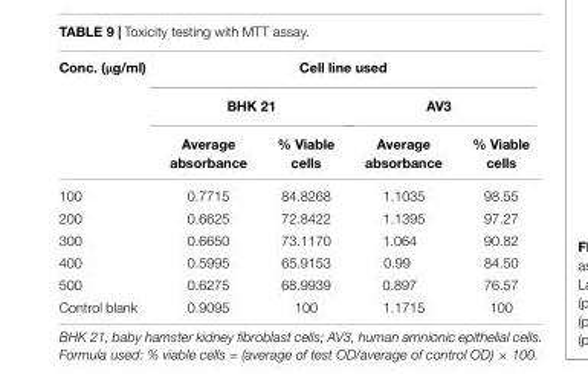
<table><thead><tr><td rowspan="3">Conc. (µg/ml)</td><td colspan="4">Cell line used</td></tr><tr><td colspan="2">BHK 21</td><td colspan="2">AV3</td></tr><tr><td>Average absorbance</td><td>% Viable cells</td><td>Average absorbance</td><td>% Viable cells</td></tr></thead><tbody><tr><td>100</td><td>0.7715</td><td>84.8268</td><td>1.1035</td><td>98.55</td></tr><tr><td>200</td><td>0.6625</td><td>72.8422</td><td>1.1395</td><td>97.27</td></tr><tr><td>300</td><td>0.6650</td><td>73.1170</td><td>1.064</td><td>90.82</td></tr><tr><td>400</td><td>0.5995</td><td>65.9153</td><td>0.99</td><td>84.50</td></tr><tr><td>500</td><td>0.6275</td><td>68.9939</td><td>0.897</td><td>76.57</td></tr><tr><td>Control blank</td><td>0.9095</td><td>100</td><td>1.1715</td><td>100</td></tr></tbody></table>